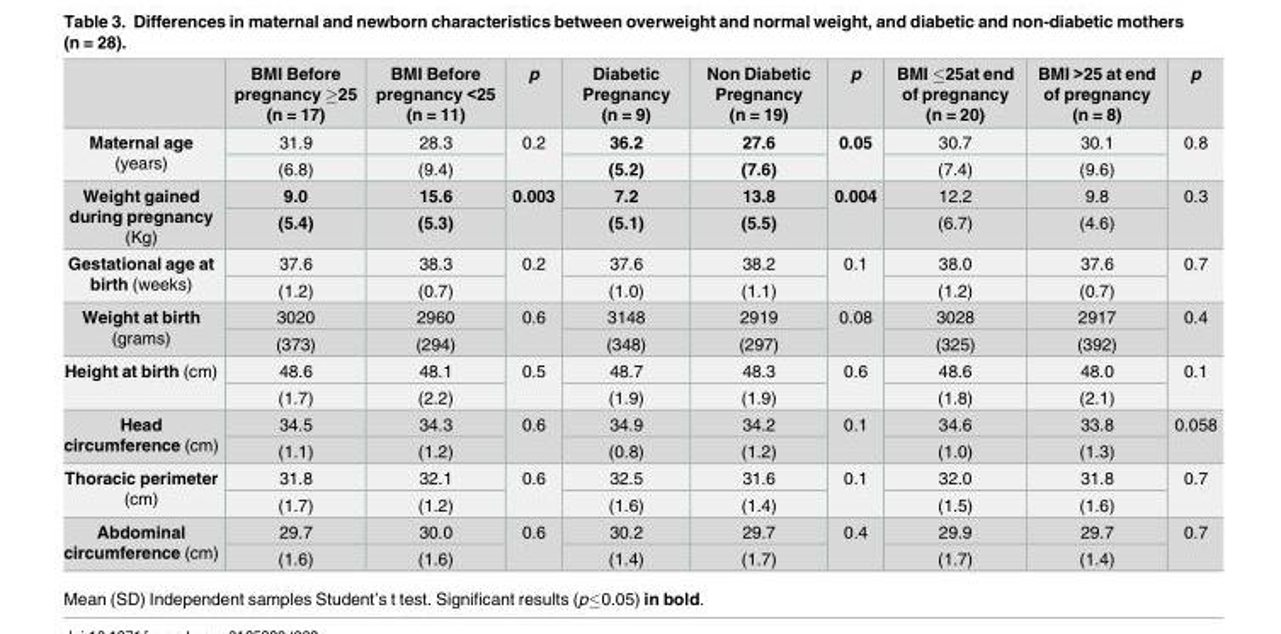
<table><thead><tr><td></td><td>BMI Before pregnancy ≥25 (n = 17)</td><td>BMI Before pregnancy &lt;25 (n = 11)</td><td>p</td><td>Diabetic Pregnancy (n = 9)</td><td>Non Diabetic Pregnancy (n = 19)</td><td>p</td><td>BMI ≤25at end of pregnancy (n = 20)</td><td>BMI &gt;25 at end of pregnancy (n = 8)</td><td>p</td></tr></thead><tbody><tr><td rowspan="2">Maternal age (years)</td><td>31.9</td><td>28.3</td><td rowspan="2">0.2</td><td>36.2</td><td>27.6</td><td rowspan="2">0.05</td><td>30.7</td><td>30.1</td><td rowspan="2">0.8</td></tr><tr><td>(6.8)</td><td>(9.4)</td><td>(5.2)</td><td>(7.6)</td><td>(7.4)</td><td>(9.6)</td></tr><tr><td rowspan="2">Weight gained during pregnancy (Kg)</td><td>9.0</td><td>15.6</td><td rowspan="2">0.003</td><td>7.2</td><td>13.8</td><td rowspan="2">0.004</td><td>12.2</td><td>9.8</td><td rowspan="2">0.3</td></tr><tr><td>(5.4)</td><td>(5.3)</td><td>(5.1)</td><td>(5.5)</td><td>(6.7)</td><td>(4.6)</td></tr><tr><td rowspan="2">Gestational age at birth (weeks)</td><td>37.6</td><td>38.3</td><td rowspan="2">0.2</td><td>37.6</td><td>38.2</td><td rowspan="2">0.1</td><td>38.0</td><td>37.6</td><td rowspan="2">0.7</td></tr><tr><td>(1.2)</td><td>(0.7)</td><td>(1.0)</td><td>(1.1)</td><td>(1.2)</td><td>(0.7)</td></tr><tr><td rowspan="2">Weight at birth (grams)</td><td>3020</td><td>2960</td><td rowspan="2">0.6</td><td>3148</td><td>2919</td><td rowspan="2">0.08</td><td>3028</td><td>2917</td><td rowspan="2">0.4</td></tr><tr><td>(373)</td><td>(294)</td><td>(348)</td><td>(297)</td><td>(325)</td><td>(392)</td></tr><tr><td rowspan="2">Height at birth (cm)</td><td>48.6</td><td>48.1</td><td rowspan="2">0.5</td><td>48.7</td><td>48.3</td><td rowspan="2">0.6</td><td>48.6</td><td>48.0</td><td rowspan="2">0.1</td></tr><tr><td>(1.7)</td><td>(2.2)</td><td>(1.9)</td><td>(1.9)</td><td>(1.8)</td><td>(2.1)</td></tr><tr><td rowspan="2">Head circumference (cm)</td><td>34.5</td><td>34.3</td><td rowspan="2">0.6</td><td>34.9</td><td>34.2</td><td rowspan="2">0.1</td><td>34.6</td><td>33.8</td><td rowspan="2">0.058</td></tr><tr><td>(1.1)</td><td>(1.2)</td><td>(0.8)</td><td>(1.2)</td><td>(1.0)</td><td>(1.3)</td></tr><tr><td rowspan="2">Thoracic perimeter (cm)</td><td>31.8</td><td>32.1</td><td rowspan="2">0.6</td><td>32.5</td><td>31.6</td><td rowspan="2">0.1</td><td>32.0</td><td>31.8</td><td rowspan="2">0.7</td></tr><tr><td>(1.7)</td><td>(1.2)</td><td>(1.6)</td><td>(1.4)</td><td>(1.5)</td><td>(1.6)</td></tr><tr><td rowspan="2">Abdominal circumference (cm)</td><td>29.7</td><td>30.0</td><td rowspan="2">0.6</td><td>30.2</td><td>29.7</td><td rowspan="2">0.4</td><td>29.9</td><td>29.7</td><td rowspan="2">0.7</td></tr><tr><td>(1.6)</td><td>(1.6)</td><td>(1.4)</td><td>(1.7)</td><td>(1.7)</td><td>(1.4)</td></tr></tbody></table>